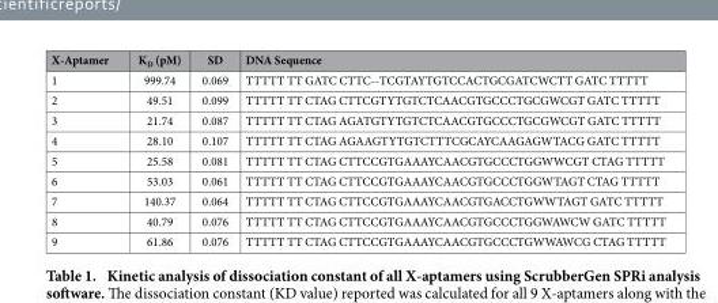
<table><thead><tr><td>X-Aptamer</td><td>K<sub>D</sub> (pM)</td><td>SD</td><td>DNA Sequence</td></tr></thead><tbody><tr><td>1</td><td>999.74</td><td>0.069</td><td>TTTTT TT GATC CTTC--TCGTAYTGTCCACTGCGATCWCTT GATC TTTTT</td></tr><tr><td>2</td><td>49.51</td><td>0.099</td><td>TTTTT TT CTAG CTTCGTYTGTCTCAACGTGCCCTGCGWCGT GATC TTTTT</td></tr><tr><td>3</td><td>21.74</td><td>0.087</td><td>TTTTT TT CTAG AGATGTYTGTCTCAACGTGCCCTGCGWCGT GATC TTTTT</td></tr><tr><td>4</td><td>28.10</td><td>0.107</td><td>TTTTT TT CTAG AGAAGTYTGTCTTTCGCAYCAAGAGWTACG GATC TTTTT</td></tr><tr><td>5</td><td>25.58</td><td>0.081</td><td>TTTTT TT CTAG CTTCCGTGAAAYCAACGTGCCCTGGWWCGT CTAG TTTTT</td></tr><tr><td>6</td><td>53.03</td><td>0.061</td><td>TTTTT TT CTAG CTTCCGTGAAAYCAACGTGCCCTGGWTAGT CTAG TTTTT</td></tr><tr><td>7</td><td>140.37</td><td>0.064</td><td>TTTTT TT CTAG CTTCCGTGAAAYCAACGTGACCTGWWTAGT GATC TTTTT</td></tr><tr><td>8</td><td>40.79</td><td>0.076</td><td>TTTTT TT CTAG CTTCCGTGAAAYCAACGTGCCCTGGWAWCW GATC TTTTT</td></tr><tr><td>9</td><td>61.86</td><td>0.076</td><td>TTTTT TT CTAG CTTCCGTGAAAYCAACGTGCCCTGWWAWCG CTAG TTTTT</td></tr></tbody></table>